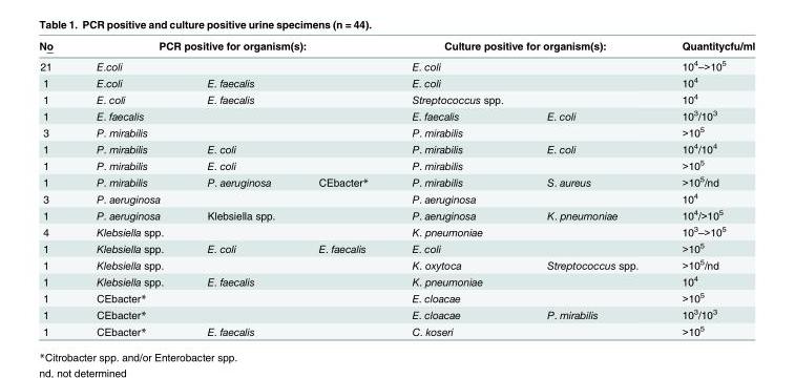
<table><thead><tr><td rowspan="2">No 21</td><td colspan="3">PCR positive for organism(s):</td><td colspan="2">Culture positive for organism(s):</td><td rowspan="2">Quantitycfu/ml 10<sup>4</sup>–&gt;10<sup>5</sup></td></tr><tr><td>E.coli</td><td></td><td></td><td>E. coli</td><td></td></tr></thead><tbody><tr><td>1</td><td>E.coli</td><td>E. faecalis</td><td></td><td>E. coli</td><td></td><td>10<sup>4</sup></td></tr><tr><td>1</td><td>E. coli</td><td>E. faecalis</td><td></td><td>Streptococcus spp.</td><td></td><td>10<sup>4</sup></td></tr><tr><td>1</td><td>E. faecalis</td><td></td><td></td><td>E. faecalis</td><td>E. coli</td><td>10<sup>3</sup>/10<sup>3</sup></td></tr><tr><td>3</td><td>P. mirabilis</td><td></td><td></td><td>P. mirabilis</td><td></td><td>&gt;10<sup>5</sup></td></tr><tr><td>1</td><td>P. mirabilis</td><td>E. coli</td><td></td><td>P. mirabilis</td><td>E. coli</td><td>10<sup>4</sup>/10<sup>4</sup></td></tr><tr><td>1</td><td>P. mirabilis</td><td>E. coli</td><td></td><td>P. mirabilis</td><td></td><td>&gt;10<sup>5</sup></td></tr><tr><td>1</td><td>P. mirabilis</td><td>P. aeruginosa</td><td>CEbacter*</td><td>P. mirabilis</td><td>S. aureus</td><td>&gt;10<sup>5</sup>/nd</td></tr><tr><td>3</td><td>P. aeruginosa</td><td></td><td></td><td>P. aeruginosa</td><td></td><td>10<sup>4</sup></td></tr><tr><td>1</td><td>P. aeruginosa</td><td>Klebsiella spp.</td><td></td><td>P. aeruginosa</td><td>K. pneumoniae</td><td>10<sup>4</sup>/&gt;10<sup>5</sup></td></tr><tr><td>4</td><td>Klebsiella spp.</td><td></td><td></td><td>K. pneumoniae</td><td></td><td>10<sup>3</sup>–&gt;10<sup>5</sup></td></tr><tr><td>1</td><td>Klebsiella spp.</td><td>E. coli</td><td>E. faecalis</td><td>E. coli</td><td></td><td>&gt;10<sup>5</sup></td></tr><tr><td>1</td><td>Klebsiella spp.</td><td></td><td></td><td>K. oxytoca</td><td>Streptococcus spp.</td><td>&gt;10<sup>5</sup>/nd</td></tr><tr><td>1</td><td>Klebsiella spp.</td><td>E. faecalis</td><td></td><td>K. pneumoniae</td><td></td><td>10<sup>4</sup></td></tr><tr><td>1</td><td>CEbacter*</td><td></td><td></td><td>E. cloacae</td><td></td><td>&gt;10<sup>5</sup></td></tr><tr><td>1</td><td>CEbacter*</td><td></td><td></td><td>E. cloacae</td><td>P. mirabilis</td><td>10<sup>3</sup>/10<sup>3</sup></td></tr><tr><td>1</td><td>CEbacter*</td><td>E. faecalis</td><td></td><td>C. koseri</td><td></td><td>&gt;10<sup>5</sup></td></tr></tbody></table>